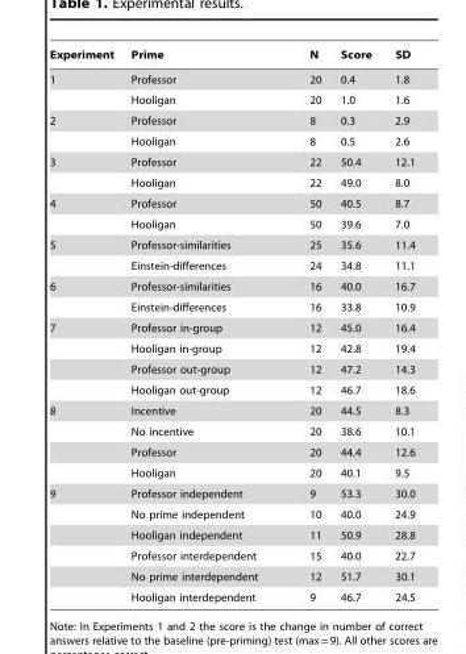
<table><thead><tr><td>Experiment</td><td>Prime</td><td>N</td><td>Score</td><td>SD</td></tr></thead><tbody><tr><td rowspan="2">1</td><td>Professor</td><td>20</td><td>0.4</td><td>1.8</td></tr><tr><td>Hooligan</td><td>20</td><td>1.0</td><td>1.6</td></tr><tr><td rowspan="2">2</td><td>Professor</td><td>8</td><td>0.3</td><td>2.9</td></tr><tr><td>Hooligan</td><td>8</td><td>0.5</td><td>2.6</td></tr><tr><td rowspan="2">3</td><td>Professor</td><td>22</td><td>50.4</td><td>12.1</td></tr><tr><td>Hooligan</td><td>22</td><td>49.0</td><td>8.0</td></tr><tr><td rowspan="2">4</td><td>Professor</td><td>50</td><td>40.5</td><td>8.7</td></tr><tr><td>Hooligan</td><td>50</td><td>39.6</td><td>7.0</td></tr><tr><td rowspan="2">5</td><td>Professor-similarities</td><td>25</td><td>35.6</td><td>11.4</td></tr><tr><td>Einstein-differences</td><td>24</td><td>34.8</td><td>11.1</td></tr><tr><td rowspan="2">6</td><td>Professor-similarities</td><td>16</td><td>40.0</td><td>16.7</td></tr><tr><td>Einstein-differences</td><td>16</td><td>33.8</td><td>10.9</td></tr><tr><td rowspan="4">7</td><td>Professor in-group</td><td>12</td><td>45.0</td><td>16.4</td></tr><tr><td>Hooligan in-group</td><td>12</td><td>42.8</td><td>19.4</td></tr><tr><td>Professor out-group</td><td>12</td><td>47.2</td><td>14.3</td></tr><tr><td>Hooligan out-group</td><td>12</td><td>46.7</td><td>18.6</td></tr><tr><td rowspan="4">8</td><td>Incentive</td><td>20</td><td>44.5</td><td>8.3</td></tr><tr><td>No incentive</td><td>20</td><td>38.6</td><td>10.1</td></tr><tr><td>Professor</td><td>20</td><td>44.4</td><td>12.6</td></tr><tr><td>Hooligan</td><td>20</td><td>40.1</td><td>9.5</td></tr><tr><td rowspan="6">9</td><td>Professor independent</td><td>9</td><td>53.3</td><td>30.0</td></tr><tr><td>No prime independent</td><td>10</td><td>40.0</td><td>24.9</td></tr><tr><td>Hooligan independent</td><td>11</td><td>50.9</td><td>28.8</td></tr><tr><td>Professor interdependent</td><td>15</td><td>40.0</td><td>22.7</td></tr><tr><td>No prime interdependent</td><td>12</td><td>51.7</td><td>30.1</td></tr><tr><td>Hooligan interdependent</td><td>9</td><td>46.7</td><td>24.5</td></tr></tbody></table>